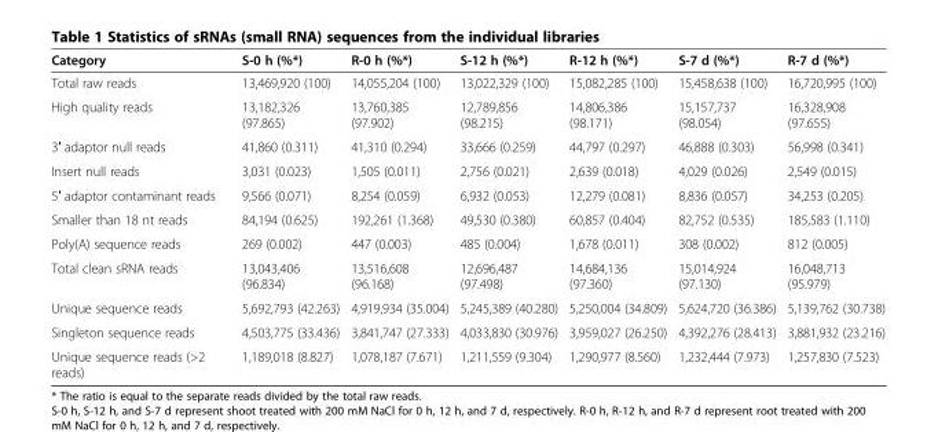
<table><thead><tr><td>Category</td><td>S-0 h (%*)</td><td>R-0 h (%*)</td><td>S-12 h (%*)</td><td>R-12 h (%*)</td><td>S-7 d (%*)</td><td>R-7 d (%*)</td></tr></thead><tbody><tr><td>Total raw reads</td><td>13,469,920 (100)</td><td>14,055,204 (100)</td><td>13,022,329 (100)</td><td>15,082,285 (100)</td><td>15,458,638 (100)</td><td>16,720,995 (100)</td></tr><tr><td>High quality reads</td><td>13,182,326 (97.865)</td><td>13,760,385 (97.902)</td><td>12,789,856 (98.215)</td><td>14,806,386 (98.171)</td><td>15,157,737 (98.054)</td><td>16,328,908 (97.655)</td></tr><tr><td>3′ adaptor null reads</td><td>41,860 (0.311)</td><td>41,310 (0.294)</td><td>33,666 (0.259)</td><td>44,797 (0.297)</td><td>46,888 (0.303)</td><td>56,998 (0.341)</td></tr><tr><td>Insert null reads</td><td>3,031 (0.023)</td><td>1,505 (0.011)</td><td>2,756 (0.021)</td><td>2,639 (0.018)</td><td>4,029 (0.026)</td><td>2,549 (0.015)</td></tr><tr><td>5′ adaptor contaminant reads</td><td>9,566 (0.071)</td><td>8,254 (0.059)</td><td>6,932 (0.053)</td><td>12,279 (0.081)</td><td>8,836 (0.057)</td><td>34,253 (0.205)</td></tr><tr><td>Smaller than 18 nt reads</td><td>84,194 (0.625)</td><td>192,261 (1.368)</td><td>49,530 (0.380)</td><td>60,857 (0.404)</td><td>82,752 (0.535)</td><td>185,583 (1.110)</td></tr><tr><td>Poly(A) sequence reads</td><td>269 (0.002)</td><td>447 (0.003)</td><td>485 (0.004)</td><td>1,678 (0.011)</td><td>308 (0.002)</td><td>812 (0.005)</td></tr><tr><td>Total clean sRNA reads</td><td>13,043,406 (96.834)</td><td>13,516,608 (96.168)</td><td>12,696,487 (97.498)</td><td>14,684,136 (97.360)</td><td>15,014,924 (97.130)</td><td>16,048,713 (95.979)</td></tr><tr><td>Unique sequence reads</td><td>5,692,793 (42.263)</td><td>4,919,934 (35.004)</td><td>5,245,389 (40.280)</td><td>5,250,004 (34.809)</td><td>5,624,720 (36.386)</td><td>5,139,762 (30.738)</td></tr><tr><td>Singleton sequence reads</td><td>4,503,775 (33.436)</td><td>3,841,747 (27.333)</td><td>4,033,830 (30.976)</td><td>3,959,027 (26.250)</td><td>4,392,276 (28.413)</td><td>3,881,932 (23.216)</td></tr><tr><td>Unique sequence reads (&gt;2 reads)</td><td>1,189,018 (8.827)</td><td>1,078,187 (7.671)</td><td>1,211,559 (9.304)</td><td>1,290,977 (8.560)</td><td>1,232,444 (7.973)</td><td>1,257,830 (7.523)</td></tr></tbody></table>